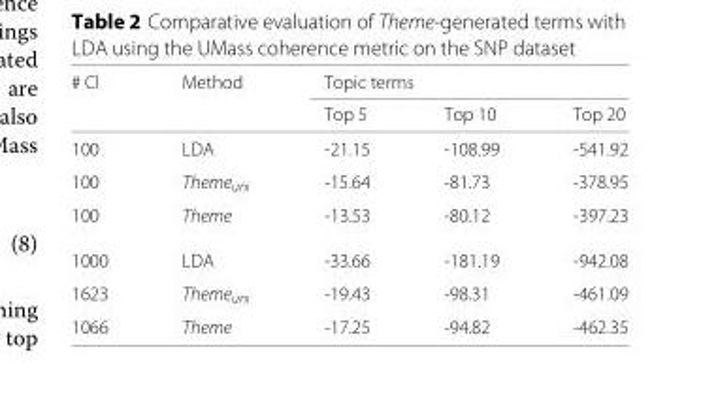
<table><thead><tr><td rowspan="2"># Cl</td><td rowspan="2">Method</td><td colspan="3">Topic terms</td></tr><tr><td>Top 5</td><td>Top 10</td><td>Top 20</td></tr></thead><tbody><tr><td>100</td><td>LDA</td><td>-21.15</td><td>-108.99</td><td>-541.92</td></tr><tr><td>100</td><td>Theme<sub>uni</sub></td><td>-15.64</td><td>-81.73</td><td>-378.95</td></tr><tr><td>100</td><td>Theme</td><td>-13.53</td><td>-80.12</td><td>-397.23</td></tr><tr><td>1000</td><td>LDA</td><td>-33.66</td><td>-181.19</td><td>-942.08</td></tr><tr><td>1623</td><td>Theme<sub>uni</sub></td><td>-19.43</td><td>-98.31</td><td>-461.09</td></tr><tr><td>1066</td><td>Theme</td><td>-17.25</td><td>-94.82</td><td>-462.35</td></tr></tbody></table>